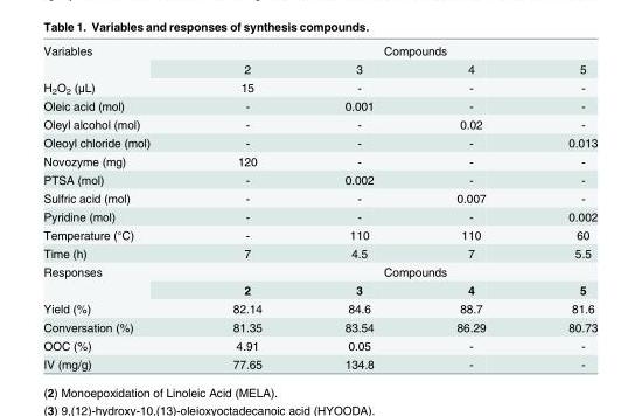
<table><tbody><tr><td rowspan="2">Variables</td><td colspan="4">Compounds</td></tr><tr><td>2</td><td>3</td><td>4</td><td>5</td></tr><tr><td>H<sub>2</sub>O<sub>2</sub> (μL)</td><td>15</td><td>-</td><td>-</td><td>-</td></tr><tr><td>Oleic acid (mol)</td><td>-</td><td>0.001</td><td>-</td><td>-</td></tr><tr><td>Oleyl alcohol (mol)</td><td>-</td><td>-</td><td>0.02</td><td>-</td></tr><tr><td>Oleoyl chloride (mol)</td><td>-</td><td>-</td><td>-</td><td>0.013</td></tr><tr><td>Novozyme (mg)</td><td>120</td><td>-</td><td>-</td><td>-</td></tr><tr><td>PTSA (mol)</td><td>-</td><td>0.002</td><td>-</td><td>-</td></tr><tr><td>Sulfric acid (mol)</td><td>-</td><td>-</td><td>0.007</td><td>-</td></tr><tr><td>Pyridine (mol)</td><td>-</td><td>-</td><td>-</td><td>0.002</td></tr><tr><td>Temperature (°C)</td><td>-</td><td>110</td><td>110</td><td>60</td></tr><tr><td>Time (h)</td><td>7</td><td>4.5</td><td>7</td><td>5.5</td></tr><tr><td rowspan="2">Responses</td><td colspan="4">Compounds</td></tr><tr><td>2</td><td>3</td><td>4</td><td>5</td></tr><tr><td>Yield (%)</td><td>82.14</td><td>84.6</td><td>88.7</td><td>81.6</td></tr><tr><td>Conversation (%)</td><td>81.35</td><td>83.54</td><td>86.29</td><td>80.73</td></tr><tr><td>OOC (%)</td><td>4.91</td><td>0.05</td><td>-</td><td>-</td></tr><tr><td>IV (mg/g)</td><td>77.65</td><td>134.8</td><td>-</td><td>-</td></tr></tbody></table>